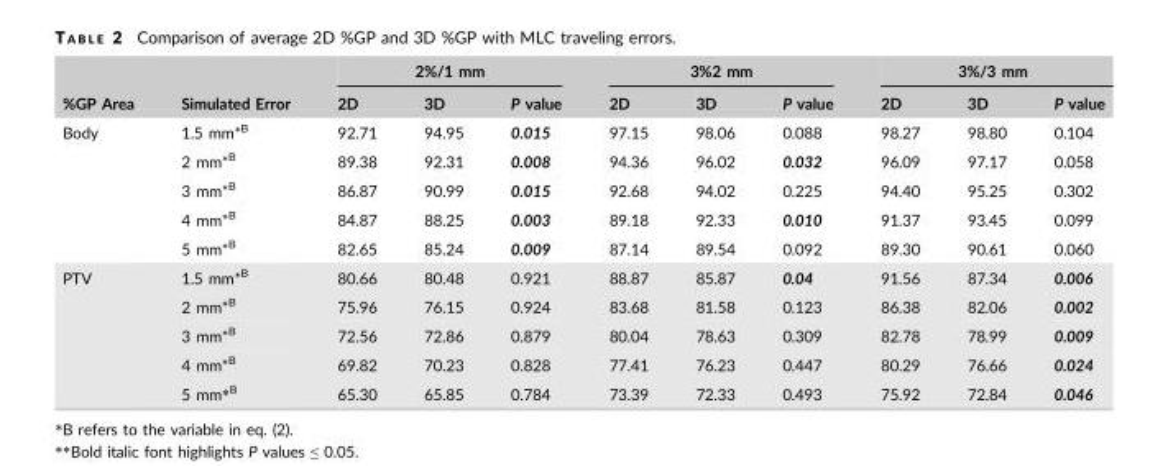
<table><thead><tr><td rowspan="2">%GP Area</td><td rowspan="2">Simulated Error</td><td colspan="3">2%/1 mm</td><td colspan="3">3%2 mm</td><td colspan="3">3%/3 mm</td></tr><tr><td>2D</td><td>3D</td><td>P value</td><td>2D</td><td>3D</td><td>P value</td><td>2D</td><td>3D</td><td>P value</td></tr></thead><tbody><tr><td rowspan="5">Body</td><td>1.5 mm*<sup>B</sup></td><td>92.71</td><td>94.95</td><td>0.015</td><td>97.15</td><td>98.06</td><td>0.088</td><td>98.27</td><td>98.80</td><td>0.104</td></tr><tr><td>2 mm*<sup>B</sup></td><td>89.38</td><td>92.31</td><td>0.008</td><td>94.36</td><td>96.02</td><td>0.032</td><td>96.09</td><td>97.17</td><td>0.058</td></tr><tr><td>3 mm*<sup>B</sup></td><td>86.87</td><td>90.99</td><td>0.015</td><td>92.68</td><td>94.02</td><td>0.225</td><td>94.40</td><td>95.25</td><td>0.302</td></tr><tr><td>4 mm*<sup>B</sup></td><td>84.87</td><td>88.25</td><td>0.003</td><td>89.18</td><td>92.33</td><td>0.010</td><td>91.37</td><td>93.45</td><td>0.099</td></tr><tr><td>5 mm*<sup>B</sup></td><td>82.65</td><td>85.24</td><td>0.009</td><td>87.14</td><td>89.54</td><td>0.092</td><td>89.30</td><td>90.61</td><td>0.060</td></tr><tr><td rowspan="5">PTV</td><td>1.5 mm*<sup>B</sup></td><td>80.66</td><td>80.48</td><td>0.921</td><td>88.87</td><td>85.87</td><td>0.04</td><td>91.56</td><td>87.34</td><td>0.006</td></tr><tr><td>2 mm*<sup>B</sup></td><td>75.96</td><td>76.15</td><td>0.924</td><td>83.68</td><td>81.58</td><td>0.123</td><td>86.38</td><td>82.06</td><td>0.002</td></tr><tr><td>3 mm*<sup>B</sup></td><td>72.56</td><td>72.86</td><td>0.879</td><td>80.04</td><td>78.63</td><td>0.309</td><td>82.78</td><td>78.99</td><td>0.009</td></tr><tr><td>4 mm*<sup>B</sup></td><td>69.82</td><td>70.23</td><td>0.828</td><td>77.41</td><td>76.23</td><td>0.447</td><td>80.29</td><td>76.66</td><td>0.024</td></tr><tr><td>5 mm*<sup>B</sup></td><td>65.30</td><td>65.85</td><td>0.784</td><td>73.39</td><td>72.33</td><td>0.493</td><td>75.92</td><td>72.84</td><td>0.046</td></tr></tbody></table>